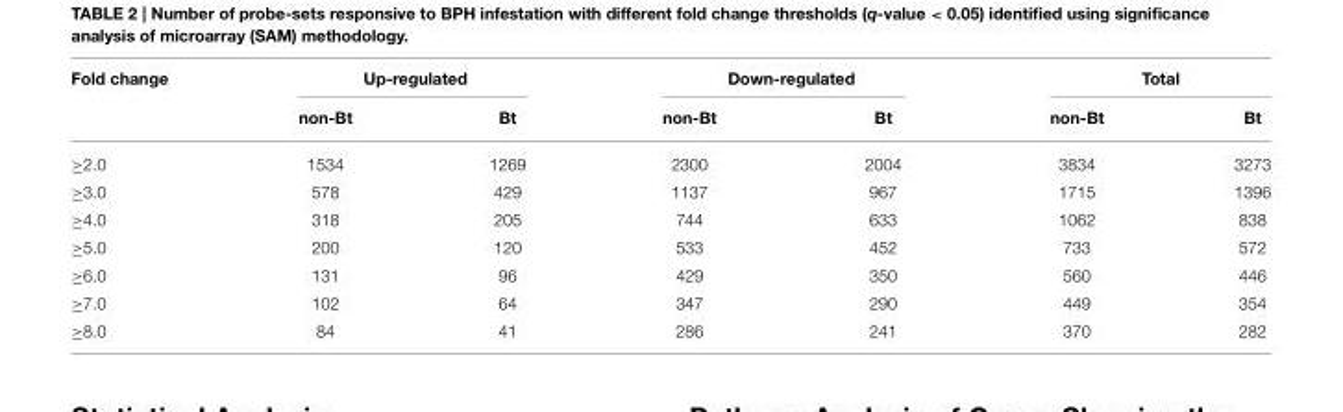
<table><thead><tr><td rowspan="2">Fold change</td><td colspan="2">Up-regulated</td><td colspan="2">Down-regulated</td><td colspan="2">Total</td></tr><tr><td>non-Bt</td><td>Bt</td><td>non-Bt</td><td>Bt</td><td>non-Bt</td><td>Bt</td></tr></thead><tbody><tr><td>≥2.0</td><td>1534</td><td>1269</td><td>2300</td><td>2004</td><td>3834</td><td>3273</td></tr><tr><td>≥3.0</td><td>578</td><td>429</td><td>1137</td><td>967</td><td>1715</td><td>1396</td></tr><tr><td>≥4.0</td><td>318</td><td>205</td><td>744</td><td>633</td><td>1062</td><td>838</td></tr><tr><td>≥5.0</td><td>200</td><td>120</td><td>533</td><td>452</td><td>733</td><td>572</td></tr><tr><td>≥6.0</td><td>131</td><td>96</td><td>429</td><td>350</td><td>560</td><td>446</td></tr><tr><td>≥7.0</td><td>102</td><td>64</td><td>347</td><td>290</td><td>449</td><td>354</td></tr><tr><td>≥8.0</td><td>84</td><td>41</td><td>286</td><td>241</td><td>370</td><td>282</td></tr></tbody></table>